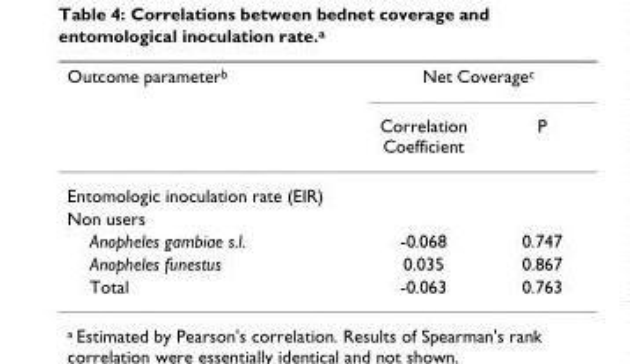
<table><thead><tr><td rowspan="2">Outcome parameter<sup>b</sup></td><td colspan="2">Net Coverage<sup>c</sup></td></tr><tr><td>Correlation Coefficient</td><td>P</td></tr></thead><tbody><tr><td colspan="3">Entomologic inoculation rate (EIR)</td></tr><tr><td colspan="3">Non users</td></tr><tr><td>Anopheles gambiae s.l.</td><td>-0.068</td><td>0.747</td></tr><tr><td>Anopheles funestus</td><td>0.035</td><td>0.867</td></tr><tr><td>Total</td><td>-0.063</td><td>0.763</td></tr></tbody></table>